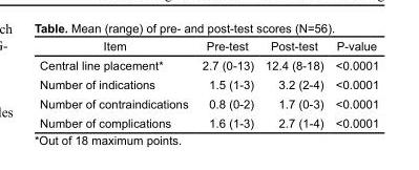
<table><thead><tr><td>Item</td><td>Pre-test</td><td>Post-test</td><td>P-value</td></tr></thead><tbody><tr><td>Central line placement*</td><td>2.7 (0-13)</td><td>12.4 (8-18)</td><td>&lt;0.0001</td></tr><tr><td>Number of indications</td><td>1.5 (1-3)</td><td>3.2 (2-4)</td><td>&lt;0.0001</td></tr><tr><td>Number of contraindications</td><td>0.8 (0-2)</td><td>1.7 (0-3)</td><td>&lt;0.0001</td></tr><tr><td>Number of complications</td><td>1.6 (1-3)</td><td>2.7 (1-4)</td><td>&lt;0.0001</td></tr></tbody></table>